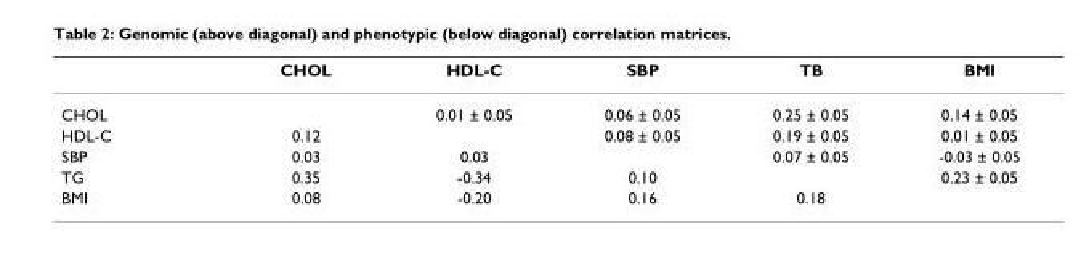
<table><thead><tr><td></td><td>CHOL</td><td>HDL-C</td><td>SBP</td><td>TB</td><td>BMI</td></tr></thead><tbody><tr><td>CHOL</td><td></td><td>0.01 ± 0.05</td><td>0.06 ± 0.05</td><td>0.25 ± 0.05</td><td>0.14 ± 0.05</td></tr><tr><td>HDL-C</td><td>0.12</td><td></td><td>0.08 ± 0.05</td><td>0.19 ± 0.05</td><td>0.01 ± 0.05</td></tr><tr><td>SBP</td><td>0.03</td><td>0.03</td><td></td><td>0.07 ± 0.05</td><td>-0.03 ± 0.05</td></tr><tr><td>TG</td><td>0.35</td><td>-0.34</td><td>0.10</td><td></td><td>0.23 ± 0.05</td></tr><tr><td>BMI</td><td>0.08</td><td>-0.20</td><td>0.16</td><td>0.18</td><td></td></tr></tbody></table>